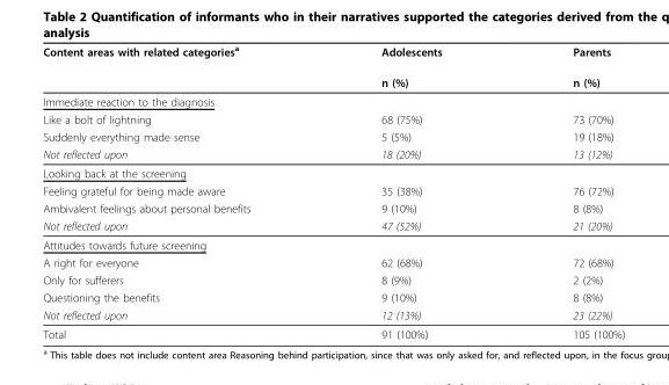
<table><thead><tr><td rowspan="2">Content areas with related categoriesa</td><td rowspan="2">Adolescents n (%)</td><td rowspan="2">Parents n (%)</td></tr><tr></tr></thead><tbody><tr><td colspan="3">Immediate reaction to the diagnosis</td></tr><tr><td>Like a bolt of lightning</td><td>68 (75%)</td><td>73 (70%)</td></tr><tr><td>Suddenly everything made sense</td><td>5 (5%)</td><td>19 (18%)</td></tr><tr><td>Not reflected upon</td><td>18 (20%)</td><td>13 (12%)</td></tr><tr><td colspan="3">Looking back at the screening</td></tr><tr><td>Feeling grateful for being made aware</td><td>35 (38%)</td><td>76 (72%)</td></tr><tr><td>Ambivalent feelings about personal benefits</td><td>9 (10%)</td><td>8 (8%)</td></tr><tr><td>Not reflected upon</td><td>47 (52%)</td><td>21 (20%)</td></tr><tr><td colspan="3">Attitudes towards future screening</td></tr><tr><td>A right for everyone</td><td>62 (68%)</td><td>72 (68%)</td></tr><tr><td>Only for sufferers</td><td>8 (9%)</td><td>2 (2%)</td></tr><tr><td>Questioning the benefits</td><td>9 (10%)</td><td>8 (8%)</td></tr><tr><td>Not reflected upon</td><td>12 (13%)</td><td>23 (22%)</td></tr><tr><td>Total</td><td>91 (100%)</td><td>105 (100%)</td></tr></tbody></table>